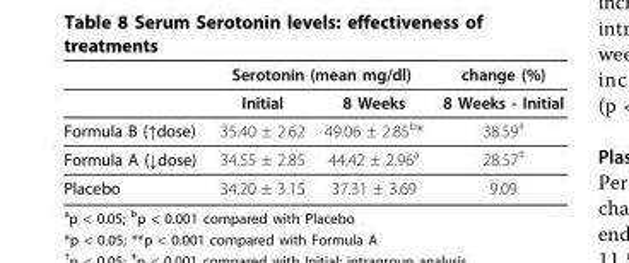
<table><thead><tr><td rowspan="2"></td><td colspan="2">Serotonin (mean mg/dl)</td><td rowspan="2">change (%) 8 Weeks - Initial</td></tr><tr><td>Initial</td><td>8 Weeks</td></tr></thead><tbody><tr><td>Formula B (↑dose)</td><td>35.40 ± 2.62</td><td>49.06 ± 2.85b*</td><td>38.59‡</td></tr><tr><td>Formula A (↓dose)</td><td>34.55 ± 2.85</td><td>44.42 ± 2.96a</td><td>28.57‡</td></tr><tr><td>Placebo</td><td>34.20 ± 3.15</td><td>37.31 ± 3.69</td><td>9.09</td></tr></tbody></table>